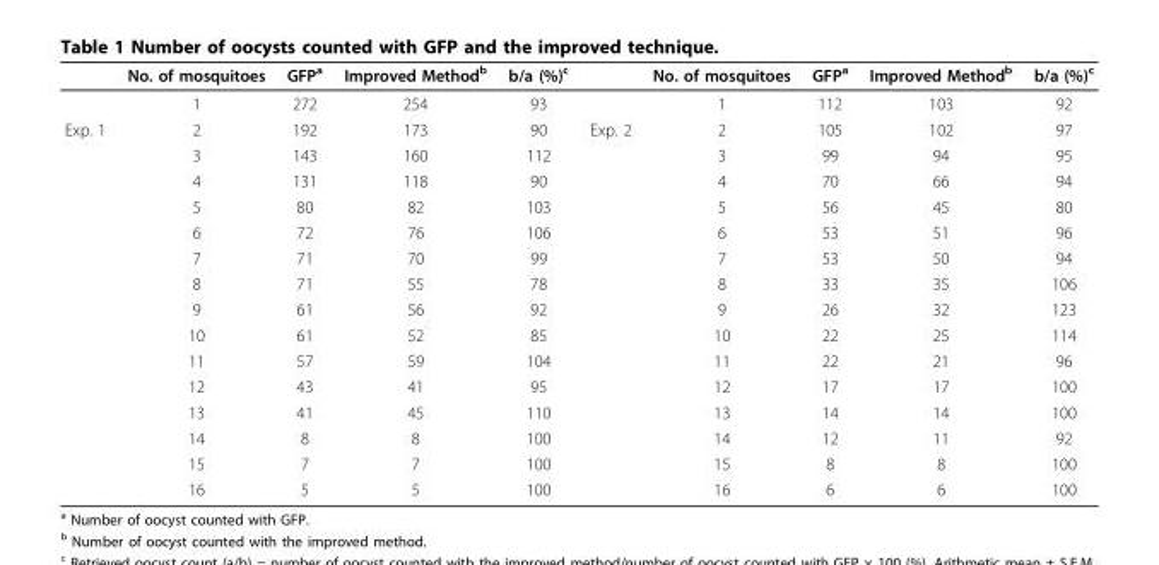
<table><thead><tr><td></td><td>No. of mosquitoes</td><td>GFP<sup>a</sup></td><td>Improved Method<sup>b</sup></td><td>b/a (%)<sup>c</sup></td><td></td><td>No. of mosquitoes</td><td>GFP<sup>a</sup></td><td>Improved Method<sup>b</sup></td><td>b/a (%)<sup>c</sup></td></tr></thead><tbody><tr><td></td><td>1</td><td>272</td><td>254</td><td>93</td><td></td><td>1</td><td>112</td><td>103</td><td>92</td></tr><tr><td rowspan="15">Exp. 1</td><td>2</td><td>192</td><td>173</td><td>90</td><td>Exp. 2</td><td>2</td><td>105</td><td>102</td><td>97</td></tr><tr><td>3</td><td>143</td><td>160</td><td>112</td><td></td><td>3</td><td>99</td><td>94</td><td>95</td></tr><tr><td>4</td><td>131</td><td>118</td><td>90</td><td></td><td>4</td><td>70</td><td>66</td><td>94</td></tr><tr><td>5</td><td>80</td><td>82</td><td>103</td><td></td><td>5</td><td>56</td><td>45</td><td>80</td></tr><tr><td>6</td><td>72</td><td>76</td><td>106</td><td></td><td>6</td><td>53</td><td>51</td><td>96</td></tr><tr><td>7</td><td>71</td><td>70</td><td>99</td><td></td><td>7</td><td>53</td><td>50</td><td>94</td></tr><tr><td>8</td><td>71</td><td>55</td><td>78</td><td></td><td>8</td><td>33</td><td>35</td><td>106</td></tr><tr><td>9</td><td>61</td><td>56</td><td>92</td><td></td><td>9</td><td>26</td><td>32</td><td>123</td></tr><tr><td>10</td><td>61</td><td>52</td><td>85</td><td></td><td>10</td><td>22</td><td>25</td><td>114</td></tr><tr><td>11</td><td>57</td><td>59</td><td>104</td><td></td><td>11</td><td>22</td><td>21</td><td>96</td></tr><tr><td>12</td><td>43</td><td>41</td><td>95</td><td></td><td>12</td><td>17</td><td>17</td><td>100</td></tr><tr><td>13</td><td>41</td><td>45</td><td>110</td><td></td><td>13</td><td>14</td><td>14</td><td>100</td></tr><tr><td>14</td><td>8</td><td>8</td><td>100</td><td></td><td>14</td><td>12</td><td>11</td><td>92</td></tr><tr><td>15</td><td>7</td><td>7</td><td>100</td><td></td><td>15</td><td>8</td><td>8</td><td>100</td></tr><tr><td>16</td><td>5</td><td>5</td><td>100</td><td></td><td>16</td><td>6</td><td>6</td><td>100</td></tr></tbody></table>